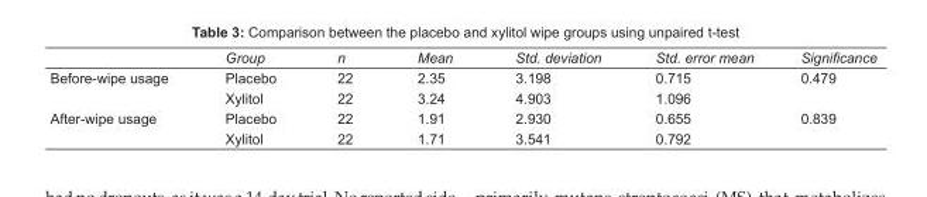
<table><thead><tr><td></td><td>Group</td><td>n</td><td>Mean</td><td>Std. deviation</td><td>Std. error mean</td><td>Significance</td></tr></thead><tbody><tr><td rowspan="2">Before-wipe usage</td><td>Placebo</td><td>22</td><td>2.35</td><td>3.198</td><td>0.715</td><td>0.479</td></tr><tr><td>Xylitol</td><td>22</td><td>3.24</td><td>4.903</td><td>1.096</td><td></td></tr><tr><td rowspan="2">After-wipe usage</td><td>Placebo</td><td>22</td><td>1.91</td><td>2.930</td><td>0.655</td><td>0.839</td></tr><tr><td>Xylitol</td><td>22</td><td>1.71</td><td>3.541</td><td>0.792</td><td></td></tr></tbody></table>